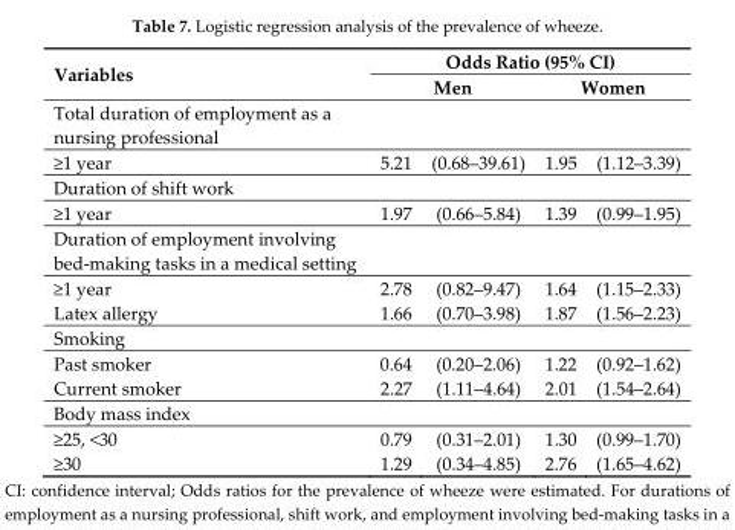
<table><thead><tr><td rowspan="3">Variables Total duration of employment as a nursing professional</td><td colspan="4">Odds Ratio (95% CI)</td></tr><tr><td colspan="2">Men</td><td colspan="2">Women</td></tr><tr><td></td><td></td><td></td><td></td></tr></thead><tbody><tr><td>≥1 year</td><td>5.21</td><td>(0.68–39.61)</td><td>1.95</td><td>(1.12–3.39)</td></tr><tr><td colspan="5">Duration of shift work</td></tr><tr><td>≥1 year</td><td>1.97</td><td>(0.66–5.84)</td><td>1.39</td><td>(0.99–1.95)</td></tr><tr><td colspan="5">Duration of employment involving bed-making tasks in a medical setting</td></tr><tr><td>≥1 year</td><td>2.78</td><td>(0.82–9.47)</td><td>1.64</td><td>(1.15–2.33)</td></tr><tr><td>Latex allergy</td><td>1.66</td><td>(0.70–3.98)</td><td>1.87</td><td>(1.56–2.23)</td></tr><tr><td colspan="5">Smoking</td></tr><tr><td>Past smoker</td><td>0.64</td><td>(0.20–2.06)</td><td>1.22</td><td>(0.92–1.62)</td></tr><tr><td>Current smoker</td><td>2.27</td><td>(1.11–4.64)</td><td>2.01</td><td>(1.54–2.64)</td></tr><tr><td colspan="5">Body mass index</td></tr><tr><td>≥25, &lt;30</td><td>0.79</td><td>(0.31–2.01)</td><td>1.30</td><td>(0.99–1.70)</td></tr><tr><td>≥30</td><td>1.29</td><td>(0.34–4.85)</td><td>2.76</td><td>(1.65–4.62)</td></tr></tbody></table>